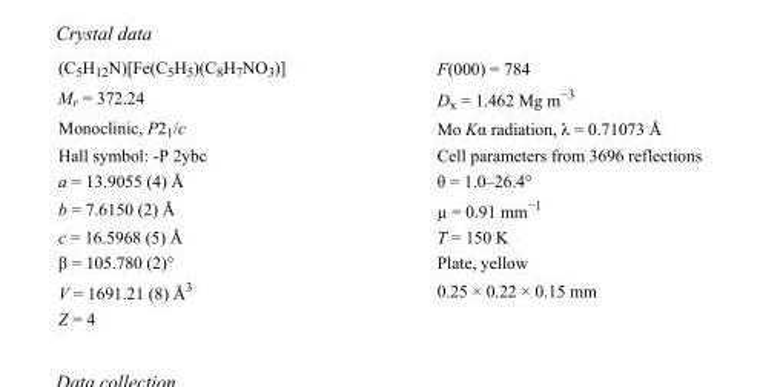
<table><tbody><tr><td>(C<sub>5</sub>H<sub>12</sub>N)[Fe(C<sub>5</sub>H<sub>5</sub>)(C<sub>8</sub>H<sub>7</sub>NO<sub>3</sub>)]</td><td>F(000) = 784</td></tr><tr><td>M<sub>r</sub> = 372.24</td><td>D<sub>x</sub> = 1.462 Mg m<sup>−3</sup></td></tr><tr><td>Monoclinic, P2<sub>1</sub>/c</td><td>Mo Kα radiation, λ = 0.71073 Å</td></tr><tr><td>Hall symbol: -P 2ybc</td><td>Cell parameters from 3696 reflections</td></tr><tr><td>a = 13.9055 (4) Å</td><td>θ = 1.0–26.4°</td></tr><tr><td>b = 7.6150 (2) Å</td><td>µ = 0.91 mm<sup>−1</sup></td></tr><tr><td>c = 16.5968 (5) Å</td><td>T = 150 K</td></tr><tr><td>β = 105.780 (2)°</td><td>Plate, yellow</td></tr><tr><td>V = 1691.21 (8) Å<sup>3</sup></td><td>0.25 × 0.22 × 0.15 mm</td></tr><tr><td>Z = 4</td><td></td></tr></tbody></table>